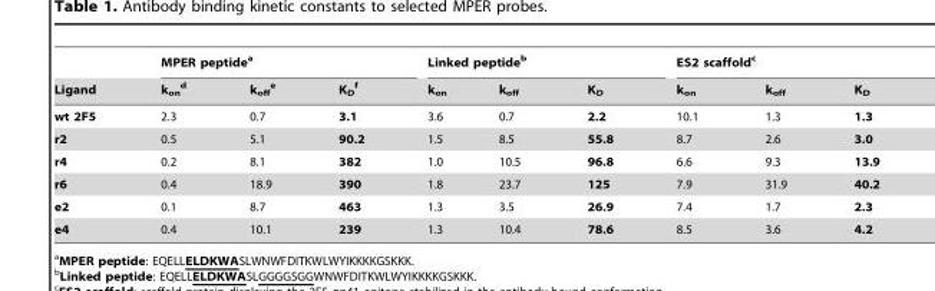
<table><thead><tr><td rowspan="2">Ligand</td><td colspan="3">MPER peptide<sup>a</sup></td><td colspan="3">Linked peptide<sup>b</sup></td><td colspan="3">ES2 scaffold<sup>c</sup></td></tr><tr><td>k<sub>on</sub> d</td><td>k<sub>off</sub> e</td><td>K<sub>D</sub> f</td><td>k<sub>on</sub></td><td>k<sub>off</sub></td><td>K<sub>D</sub></td><td>k<sub>on</sub></td><td>k<sub>off</sub></td><td>K<sub>D</sub></td></tr></thead><tbody><tr><td>wt 2F5</td><td>2.3</td><td>0.7</td><td>3.1</td><td>3.6</td><td>0.7</td><td>2.2</td><td>10.1</td><td>1.3</td><td>1.3</td></tr><tr><td>r2</td><td>0.5</td><td>5.1</td><td>90.2</td><td>1.5</td><td>8.5</td><td>55.8</td><td>8.7</td><td>2.6</td><td>3.0</td></tr><tr><td>r4</td><td>0.2</td><td>8.1</td><td>382</td><td>1.0</td><td>10.5</td><td>96.8</td><td>6.6</td><td>9.3</td><td>13.9</td></tr><tr><td>r6</td><td>0.4</td><td>18.9</td><td>390</td><td>1.8</td><td>23.7</td><td>125</td><td>7.9</td><td>31.9</td><td>40.2</td></tr><tr><td>e2</td><td>0.1</td><td>8.7</td><td>463</td><td>1.3</td><td>3.5</td><td>26.9</td><td>7.4</td><td>1.7</td><td>2.3</td></tr><tr><td>e4</td><td>0.4</td><td>10.1</td><td>239</td><td>1.3</td><td>10.4</td><td>78.6</td><td>8.5</td><td>3.6</td><td>4.2</td></tr></tbody></table>